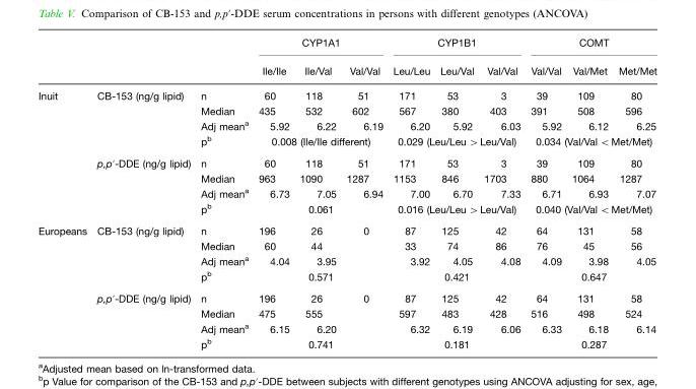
<table><thead><tr><td rowspan="2"></td><td rowspan="2"></td><td rowspan="2"></td><td colspan="3">CYP1A1</td><td colspan="3">CYP1B1</td><td colspan="3">COMT</td></tr><tr><td>Ile/Ile</td><td>Ile/Val</td><td>Val/Val</td><td>Leu/Leu</td><td>Leu/Val</td><td>Val/Val</td><td>Val/Val</td><td>Val/Met</td><td>Met/Met</td></tr></thead><tbody><tr><td rowspan="8">Inuit</td><td>CB-153 (ng/g lipid)</td><td>n</td><td>60</td><td>118</td><td>51</td><td>171</td><td>53</td><td>3</td><td>39</td><td>109</td><td>80</td></tr><tr><td></td><td>Median</td><td>435</td><td>532</td><td>602</td><td>567</td><td>380</td><td>403</td><td>391</td><td>508</td><td>596</td></tr><tr><td></td><td>Adj mean<sup>a</sup></td><td>5.92</td><td>6.22</td><td>6.19</td><td>6.20</td><td>5.92</td><td>6.03</td><td>5.92</td><td>6.12</td><td>6.25</td></tr><tr><td></td><td>p<sup>b</sup></td><td colspan="3">0.008 (Ile/Ile different)</td><td colspan="3">0.029 (Leu/Leu &gt;Leu/Val)</td><td colspan="3">0.034 (Val/Val &lt;Met/Met)</td></tr><tr><td>p,p′-DDE (ng/g lipid)</td><td>n</td><td>60</td><td>118</td><td>51</td><td>171</td><td>53</td><td>3</td><td>39</td><td>109</td><td>80</td></tr><tr><td></td><td>Median</td><td>963</td><td>1090</td><td>1287</td><td>1153</td><td>846</td><td>1703</td><td>880</td><td>1064</td><td>1287</td></tr><tr><td></td><td>Adj mean<sup>a</sup></td><td>6.73</td><td>7.05</td><td>6.94</td><td>7.00</td><td>6.70</td><td>7.33</td><td>6.71</td><td>6.93</td><td>7.07</td></tr><tr><td></td><td>p<sup>b</sup></td><td colspan="3">0.061</td><td colspan="3">0.016 (Leu/Leu &gt;Leu/Val)</td><td colspan="3">0.040 (Val/Val &lt;Met/Met)</td></tr><tr><td rowspan="8">Europeans</td><td>CB-153 (ng/g lipid)</td><td>n</td><td>196</td><td>26</td><td>0</td><td>87</td><td>125</td><td>42</td><td>64</td><td>131</td><td>58</td></tr><tr><td></td><td>Median</td><td>60</td><td>44</td><td></td><td>33</td><td>74</td><td>86</td><td>76</td><td>45</td><td>56</td></tr><tr><td></td><td>Adj mean<sup>a</sup></td><td>4.04</td><td>3.95</td><td></td><td>3.92</td><td>4.05</td><td>4.08</td><td>4.09</td><td>3.98</td><td>4.05</td></tr><tr><td></td><td>p<sup>b</sup></td><td colspan="3">0.571</td><td colspan="3">0.421</td><td colspan="3">0.647</td></tr><tr><td>p,p′-DDE (ng/g lipid)</td><td>n</td><td>196</td><td>26</td><td>0</td><td>87</td><td>125</td><td>42</td><td>64</td><td>131</td><td>58</td></tr><tr><td></td><td>Median</td><td>475</td><td>555</td><td></td><td>597</td><td>483</td><td>428</td><td>516</td><td>498</td><td>524</td></tr><tr><td></td><td>Adj mean<sup>a</sup></td><td>6.15</td><td>6.20</td><td></td><td>6.32</td><td>6.19</td><td>6.06</td><td>6.33</td><td>6.18</td><td>6.14</td></tr><tr><td></td><td>p<sup>b</sup></td><td colspan="3">0.741</td><td colspan="3">0.181</td><td colspan="3">0.287</td></tr></tbody></table>